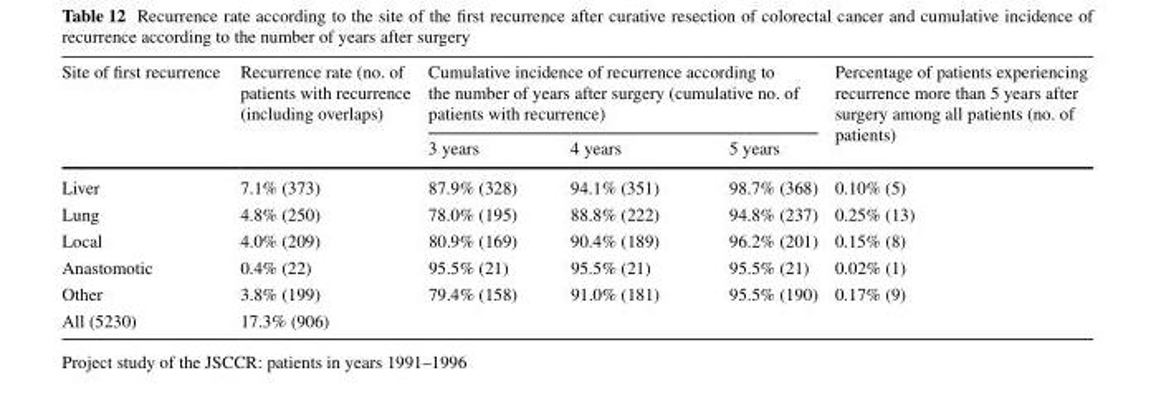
<table><thead><tr><td rowspan="2">Site of first recurrence</td><td rowspan="2">Recurrence rate (no. of patients with recurrence (including overlaps)</td><td colspan="3">Cumulative incidence of recurrence according to the number of years after surgery (cumulative no. of patients with recurrence)</td><td rowspan="2">Percentage of patients experiencing recurrence more than 5 years after surgery among all patients (no. of patients)</td></tr><tr><td>3 years</td><td>4 years</td><td>5 years</td></tr></thead><tbody><tr><td>Liver</td><td>7.1% (373)</td><td>87.9% (328)</td><td>94.1% (351)</td><td>98.7% (368)</td><td>0.10% (5)</td></tr><tr><td>Lung</td><td>4.8% (250)</td><td>78.0% (195)</td><td>88.8% (222)</td><td>94.8% (237)</td><td>0.25% (13)</td></tr><tr><td>Local</td><td>4.0% (209)</td><td>80.9% (169)</td><td>90.4% (189)</td><td>96.2% (201)</td><td>0.15% (8)</td></tr><tr><td>Anastomotic</td><td>0.4% (22)</td><td>95.5% (21)</td><td>95.5% (21)</td><td>95.5% (21)</td><td>0.02% (1)</td></tr><tr><td>Other</td><td>3.8% (199)</td><td>79.4% (158)</td><td>91.0% (181)</td><td>95.5% (190)</td><td>0.17% (9)</td></tr><tr><td>All (5230)</td><td>17.3% (906)</td><td colspan="3"></td><td></td></tr></tbody></table>